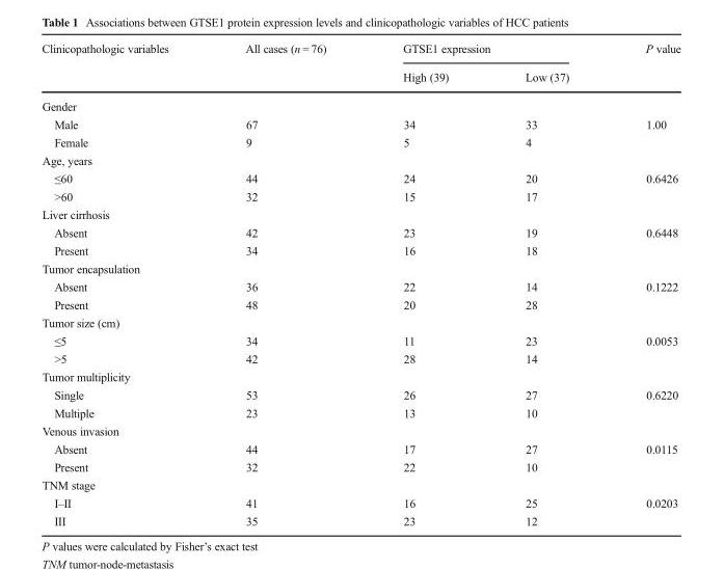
<table><thead><tr><td rowspan="2">Clinicopathologic variables</td><td rowspan="2">All cases (n = 76)</td><td colspan="2">GTSE1 expression</td><td rowspan="2">P value</td></tr><tr><td>High (39)</td><td>Low (37)</td></tr></thead><tbody><tr><td colspan="5">Gender</td></tr><tr><td>Male</td><td>67</td><td>34</td><td>33</td><td>1.00</td></tr><tr><td>Female</td><td>9</td><td>5</td><td>4</td><td></td></tr><tr><td colspan="5">Age, years</td></tr><tr><td>≤60</td><td>44</td><td>24</td><td>20</td><td>0.6426</td></tr><tr><td>&gt;60</td><td>32</td><td>15</td><td>17</td><td></td></tr><tr><td colspan="5">Liver cirrhosis</td></tr><tr><td>Absent</td><td>42</td><td>23</td><td>19</td><td>0.6448</td></tr><tr><td>Present</td><td>34</td><td>16</td><td>18</td><td></td></tr><tr><td colspan="5">Tumor encapsulation</td></tr><tr><td>Absent</td><td>36</td><td>22</td><td>14</td><td>0.1222</td></tr><tr><td>Present</td><td>48</td><td>20</td><td>28</td><td></td></tr><tr><td colspan="5">Tumor size (cm)</td></tr><tr><td>≤5</td><td>34</td><td>11</td><td>23</td><td>0.0053</td></tr><tr><td>&gt;5</td><td>42</td><td>28</td><td>14</td><td></td></tr><tr><td colspan="5">Tumor multiplicity</td></tr><tr><td>Single</td><td>53</td><td>26</td><td>27</td><td>0.6220</td></tr><tr><td>Multiple</td><td>23</td><td>13</td><td>10</td><td></td></tr><tr><td colspan="5">Venous invasion</td></tr><tr><td>Absent</td><td>44</td><td>17</td><td>27</td><td>0.0115</td></tr><tr><td>Present</td><td>32</td><td>22</td><td>10</td><td></td></tr><tr><td colspan="5">TNM stage</td></tr><tr><td>I–II</td><td>41</td><td>16</td><td>25</td><td>0.0203</td></tr><tr><td>III</td><td>35</td><td>23</td><td>12</td><td></td></tr></tbody></table>